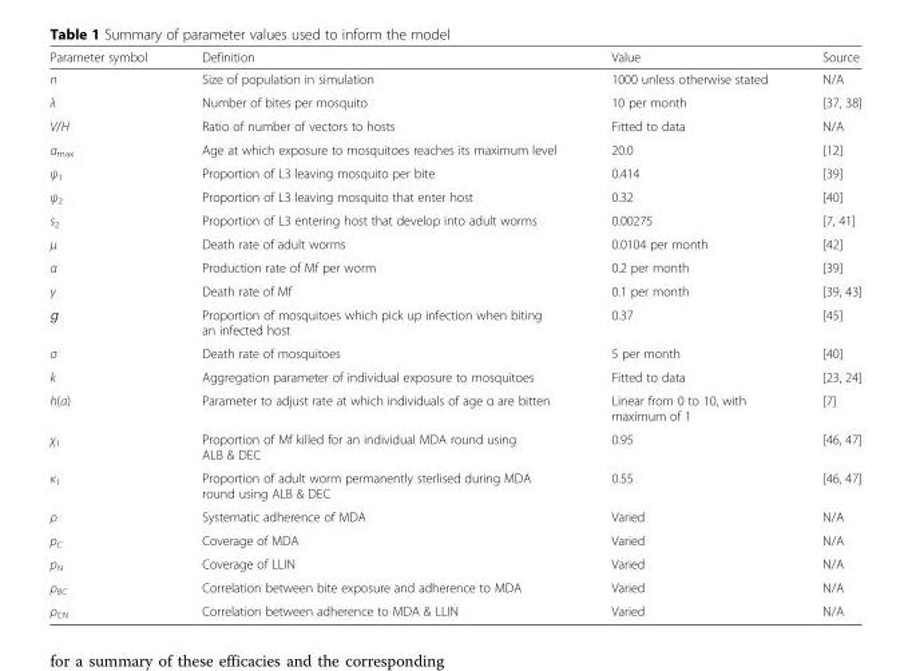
<table><thead><tr><td>Parameter symbol</td><td>Definition</td><td>Value</td><td>Source</td></tr></thead><tbody><tr><td>n</td><td>Size of population in simulation</td><td>1000 unless otherwise stated</td><td>N/A</td></tr><tr><td>λ</td><td>Number of bites per mosquito</td><td>10 per month</td><td>[37, 38]</td></tr><tr><td>V/H</td><td>Ratio of number of vectors to hosts</td><td>Fitted to data</td><td>N/A</td></tr><tr><td>α<sub>max</sub></td><td>Age at which exposure to mosquitoes reaches its maximum level</td><td>20.0</td><td>[12]</td></tr><tr><td>ψ<sub>1</sub></td><td>Proportion of L3 leaving mosquito per bite</td><td>0.414</td><td>[39]</td></tr><tr><td>ψ<sub>2</sub></td><td>Proportion of L3 leaving mosquito that enter host</td><td>0.32</td><td>[40]</td></tr><tr><td>s<sub>2</sub></td><td>Proportion of L3 entering host that develop into adult worms</td><td>0.00275</td><td>[7, 41]</td></tr><tr><td>μ</td><td>Death rate of adult worms</td><td>0.0104 per month</td><td>[42]</td></tr><tr><td>α</td><td>Production rate of Mf per worm</td><td>0.2 per month</td><td>[39]</td></tr><tr><td>γ</td><td>Death rate of Mf</td><td>0.1 per month</td><td>[39, 43]</td></tr><tr><td>ɡ</td><td>Proportion of mosquitoes which pick up infection when biting an infected host</td><td>0.37</td><td>[45]</td></tr><tr><td>σ</td><td>Death rate of mosquitoes</td><td>5 per month</td><td>[40]</td></tr><tr><td>k</td><td>Aggregation parameter of individual exposure to mosquitoes</td><td>Fitted to data</td><td>[23, 24]</td></tr><tr><td>h(a)</td><td>Parameter to adjust rate at which individuals of age α are bitten</td><td>Linear from 0 to 10, with maximum of 1</td><td>[7]</td></tr><tr><td>χ<sub>1</sub></td><td>Proportion of Mf killed for an individual MDA round using ALB &amp; DEC</td><td>0.95</td><td>[46, 47]</td></tr><tr><td>κ<sub>1</sub></td><td>Proportion of adult worm permanently sterlised during MDA round using ALB &amp; DEC</td><td>0.55</td><td>[46, 47]</td></tr><tr><td>ρ</td><td>Systematic adherence of MDA</td><td>Varied</td><td>N/A</td></tr><tr><td>p<sub>C</sub></td><td>Coverage of MDA</td><td>Varied</td><td>N/A</td></tr><tr><td>p<sub>N</sub></td><td>Coverage of LLIN</td><td>Varied</td><td>N/A</td></tr><tr><td>ρ<sub>BC</sub></td><td>Correlation between bite exposure and adherence to MDA</td><td>Varied</td><td>N/A</td></tr><tr><td>ρ<sub>CN</sub></td><td>Correlation between adherence to MDA &amp; LLIN</td><td>Varied</td><td>N/A</td></tr></tbody></table>